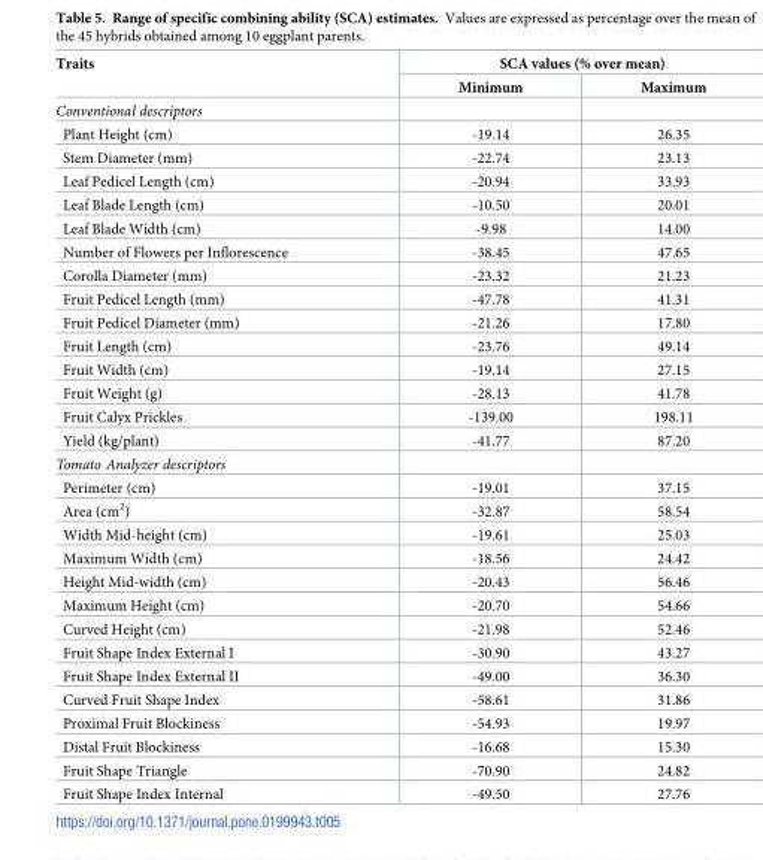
<table><thead><tr><td rowspan="2">Traits</td><td colspan="2">SCA values (% over mean)</td></tr><tr><td>Minimum</td><td>Maximum</td></tr></thead><tbody><tr><td colspan="3">Conventional descriptors</td></tr><tr><td>Plant Height (cm)</td><td>-19.14</td><td>26.35</td></tr><tr><td>Stem Diameter (mm)</td><td>-22.74</td><td>23.13</td></tr><tr><td>Leaf Pedicel Length (cm)</td><td>-20.94</td><td>33.93</td></tr><tr><td>Leaf Blade Length (cm)</td><td>-10.50</td><td>20.01</td></tr><tr><td>Leaf Blade Width (cm)</td><td>-9.98</td><td>14.00</td></tr><tr><td>Number of Flowers per Inflorescence</td><td>-38.45</td><td>47.65</td></tr><tr><td>Corolla Diameter (mm)</td><td>-23.32</td><td>21.23</td></tr><tr><td>Fruit Pedicel Length (mm)</td><td>-47.78</td><td>41.31</td></tr><tr><td>Fruit Pedicel Diameter (mm)</td><td>-21.26</td><td>17.80</td></tr><tr><td>Fruit Length (cm)</td><td>-23.76</td><td>49.14</td></tr><tr><td>Fruit Width (cm)</td><td>-19.14</td><td>27.15</td></tr><tr><td>Fruit Weight (g)</td><td>-28.13</td><td>41.78</td></tr><tr><td>Fruit Calyx Prickles</td><td>-139.00</td><td>198.11</td></tr><tr><td>Yield (kg/plant)</td><td>-41.77</td><td>87.20</td></tr><tr><td colspan="3">Tomato Analyzer descriptors</td></tr><tr><td>Perimeter (cm)</td><td>-19.01</td><td>37.15</td></tr><tr><td>Area (cm<sup>2</sup>)</td><td>-32.87</td><td>58.54</td></tr><tr><td>Width Mid-height (cm)</td><td>-19.61</td><td>25.03</td></tr><tr><td>Maximum Width (cm)</td><td>-18.56</td><td>24.42</td></tr><tr><td>Height Mid-width (cm)</td><td>-20.43</td><td>56.46</td></tr><tr><td>Maximum Height (cm)</td><td>-20.70</td><td>54.66</td></tr><tr><td>Curved Height (cm)</td><td>-21.98</td><td>52.46</td></tr><tr><td>Fruit Shape Index External I</td><td>-30.90</td><td>43.27</td></tr><tr><td>Fruit Shape Index External II</td><td>-49.00</td><td>36.30</td></tr><tr><td>Curved Fruit Shape Index</td><td>-58.61</td><td>31.86</td></tr><tr><td>Proximal Fruit Blockiness</td><td>-54.93</td><td>19.97</td></tr><tr><td>Distal Fruit Blockiness</td><td>-16.68</td><td>15.30</td></tr><tr><td>Fruit Shape Triangle</td><td>-70.90</td><td>24.82</td></tr><tr><td>Fruit Shape Index Internal</td><td>-49.50</td><td>27.76</td></tr></tbody></table>